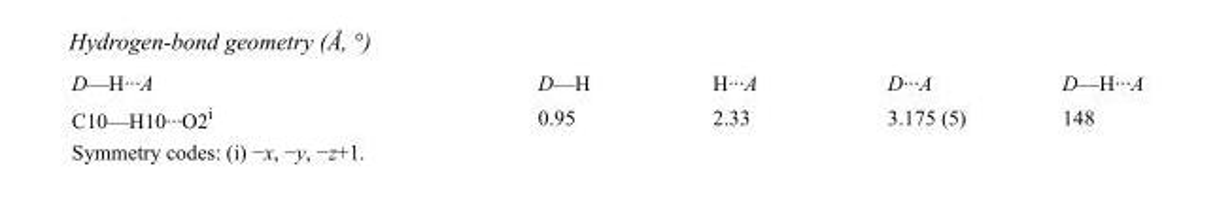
<table><tbody><tr><td>D—H···A</td><td>D—H</td><td>H···A</td><td>D···A</td><td>D—H···A</td></tr><tr><td>C10—H10···O2<sup>i</sup></td><td>0.95</td><td>2.33</td><td>3.175 (5)</td><td>148</td></tr></tbody></table>